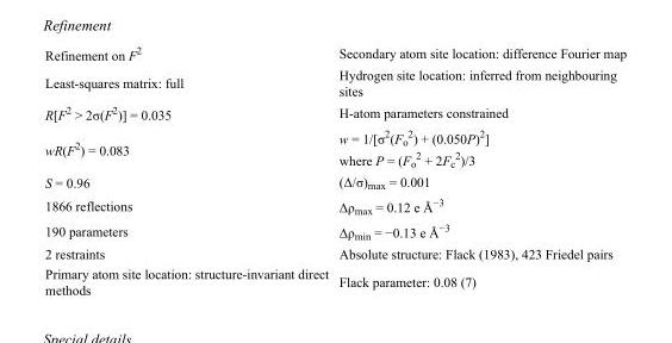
<table><tbody><tr><td>Refinement on F<sup>2</sup></td><td>Secondary atom site location: difference Fourier map</td></tr><tr><td>Least-squares matrix: full</td><td>Hydrogen site location: inferred from neighbouring sites</td></tr><tr><td>R[F<sup>2</sup> &gt; 2σ(F<sup>2</sup>)] = 0.035</td><td>H-atom parameters constrained</td></tr><tr><td>wR(F<sup>2</sup>) = 0.083</td><td>w = 1/[σ<sup>2</sup>(F<sub>o</sub> <sup>2</sup>) + (0.050P)<sup>2</sup>] where P = (F<sub>o</sub> <sup>2</sup> + 2F<sub>c</sub> <sup>2</sup>)/3</td></tr><tr><td>S = 0.96</td><td>(Δ/σ)<sub>max</sub> = 0.001</td></tr><tr><td>1866 reflections</td><td>Δρ<sub>max</sub> = 0.12 e Å<sup>−3</sup></td></tr><tr><td>190 parameters</td><td>Δρ<sub>min</sub> = −0.13 e Å<sup>−3</sup></td></tr><tr><td>2 restraints</td><td>Absolute structure: Flack (1983), 423 Friedel pairs</td></tr><tr><td>Primary atom site location: structure-invariant direct methods</td><td>Flack parameter: 0.08 (7)</td></tr></tbody></table>